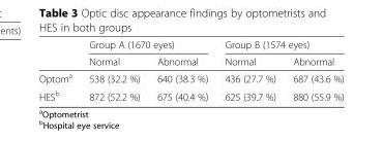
<table><thead><tr><td rowspan="2"></td><td colspan="2">Group A (1670 eyes)</td><td colspan="2">Group B (1574 eyes)</td></tr><tr><td>Normal</td><td>Abnormal</td><td>Normal</td><td>Abnormal</td></tr></thead><tbody><tr><td>Optom<sup>a</sup></td><td>538 (32.2 %)</td><td>640 (38.3 %)</td><td>436 (27.7 %)</td><td>687 (43.6 %)</td></tr><tr><td>HES<sup>b</sup></td><td>872 (52.2 %)</td><td>675 (40.4 %)</td><td>625 (39.7 %)</td><td>880 (55.9 %)</td></tr></tbody></table>